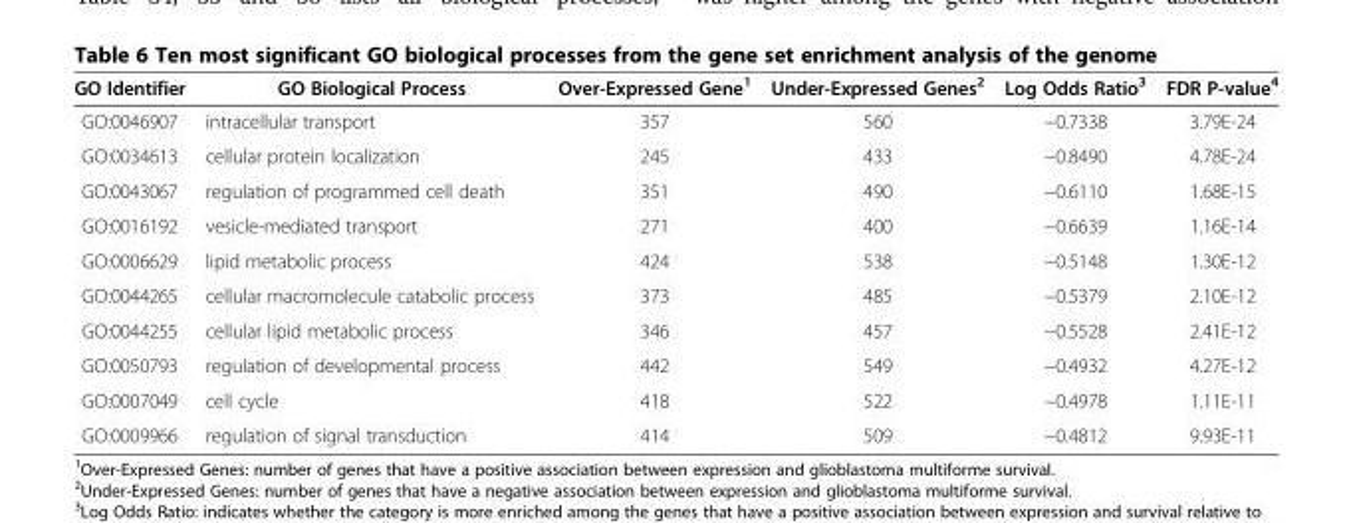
<table><thead><tr><td>GO Identifier</td><td>GO Biological Process</td><td>Over-Expressed Gene<sup>1</sup></td><td>Under-Expressed Genes<sup>2</sup></td><td>Log Odds Ratio<sup>3</sup></td><td>FDR P-value<sup>4</sup></td></tr></thead><tbody><tr><td>GO:0046907</td><td>intracellular transport</td><td>357</td><td>560</td><td>−0.7338</td><td>3.79E-24</td></tr><tr><td>GO:0034613</td><td>cellular protein localization</td><td>245</td><td>433</td><td>−0.8490</td><td>4.78E-24</td></tr><tr><td>GO:0043067</td><td>regulation of programmed cell death</td><td>351</td><td>490</td><td>−0.6110</td><td>1.68E-15</td></tr><tr><td>GO:0016192</td><td>vesicle-mediated transport</td><td>271</td><td>400</td><td>−0.6639</td><td>1.16E-14</td></tr><tr><td>GO:0006629</td><td>lipid metabolic process</td><td>424</td><td>538</td><td>−0.5148</td><td>1.30E-12</td></tr><tr><td>GO:0044265</td><td>cellular macromolecule catabolic process</td><td>373</td><td>485</td><td>−0.5379</td><td>2.10E-12</td></tr><tr><td>GO:0044255</td><td>cellular lipid metabolic process</td><td>346</td><td>457</td><td>−0.5528</td><td>2.41E-12</td></tr><tr><td>GO:0050793</td><td>regulation of developmental process</td><td>442</td><td>549</td><td>−0.4932</td><td>4.27E-12</td></tr><tr><td>GO:0007049</td><td>cell cycle</td><td>418</td><td>522</td><td>−0.4978</td><td>1.11E-11</td></tr><tr><td>GO:0009966</td><td>regulation of signal transduction</td><td>414</td><td>509</td><td>−0.4812</td><td>9.93E-11</td></tr></tbody></table>